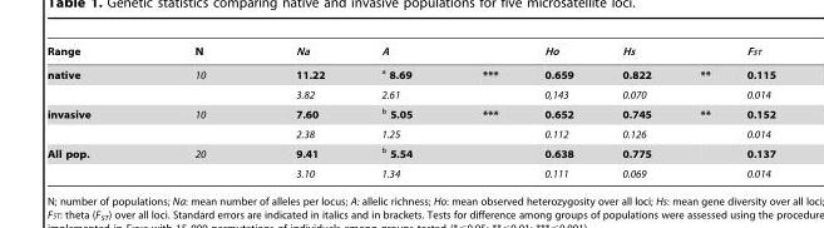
<table><thead><tr><td>Range</td><td>N</td><td>Na</td><td>A</td><td></td><td>Ho</td><td>Hs</td><td></td><td>FST</td></tr></thead><tbody><tr><td rowspan="2">native</td><td>10</td><td>11.22</td><td>a 8.69</td><td>***</td><td>0.659</td><td>0.822</td><td>**</td><td>0.115</td></tr><tr><td></td><td>3.82</td><td>2.61</td><td></td><td>0,143</td><td>0.070</td><td></td><td>0.014</td></tr><tr><td rowspan="2">invasive</td><td>10</td><td>7.60</td><td><sup>b</sup> 5.05</td><td>***</td><td>0.652</td><td>0.745</td><td>**</td><td>0.152</td></tr><tr><td></td><td>2.38</td><td>1.25</td><td></td><td>0.112</td><td>0.126</td><td></td><td>0.014</td></tr><tr><td rowspan="2">All pop.</td><td>20</td><td>9.41</td><td><sup>b</sup> 5.54</td><td></td><td>0.638</td><td>0.775</td><td></td><td>0.137</td></tr><tr><td></td><td>3.10</td><td>1.34</td><td></td><td>0.111</td><td>0.069</td><td></td><td>0.014</td></tr></tbody></table>